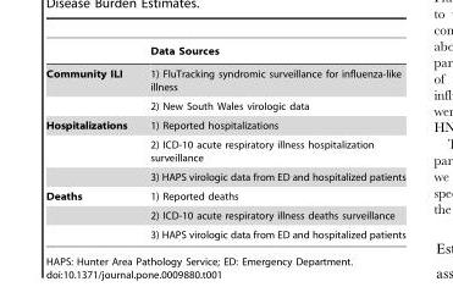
<table><thead><tr><td></td><td>Data Sources</td></tr></thead><tbody><tr><td rowspan="2">Community ILI</td><td>1) FluTracking syndromic surveillance for influenza-like illness</td></tr><tr><td>2) New South Wales virologic data</td></tr><tr><td rowspan="3">Hospitalizations</td><td>1) Reported hospitalizations</td></tr><tr><td>2) ICD-10 acute respiratory illness hospitalization surveillance</td></tr><tr><td>3) HAPS virologic data from ED and hospitalized patients</td></tr><tr><td rowspan="3">Deaths</td><td>1) Reported deaths</td></tr><tr><td>2) ICD-10 acute respiratory illness deaths surveillance</td></tr><tr><td>3) HAPS virologic data from ED and hospitalized patients</td></tr></tbody></table>